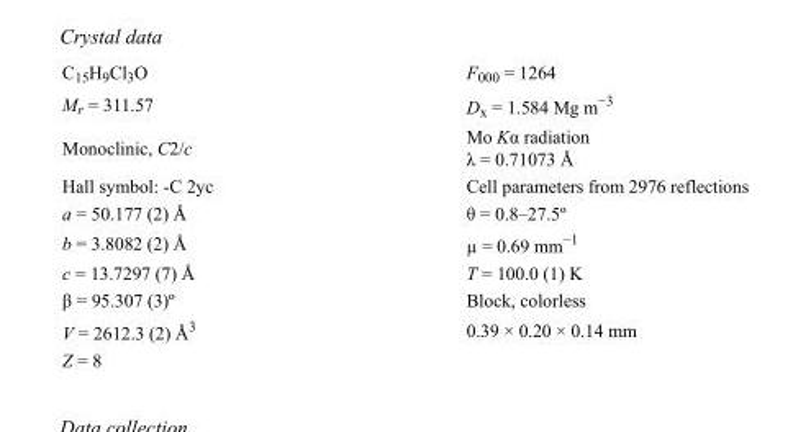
<table><tbody><tr><td>C<sub>15</sub>H<sub>9</sub>Cl<sub>3</sub>O</td><td>F<sub>000</sub> = 1264</td></tr><tr><td>M<sub>r</sub> = 311.57</td><td>D<sub>x</sub> = 1.584 Mg m<sup>−3</sup></td></tr><tr><td>Monoclinic, C2/c</td><td>Mo Kα radiation λ = 0.71073 Å</td></tr><tr><td>Hall symbol: -C 2yc</td><td>Cell parameters from 2976 reflections</td></tr><tr><td>a = 50.177 (2) Å</td><td>θ = 0.8–27.5º</td></tr><tr><td>b = 3.8082 (2) Å</td><td>µ = 0.69 mm<sup>−1</sup></td></tr><tr><td>c = 13.7297 (7) Å</td><td>T = 100.0 (1) K</td></tr><tr><td>β = 95.307 (3)º</td><td>Block, colorless</td></tr><tr><td>V = 2612.3 (2) Å<sup>3</sup></td><td>0.39 × 0.20 × 0.14 mm</td></tr><tr><td>Z = 8</td><td></td></tr></tbody></table>